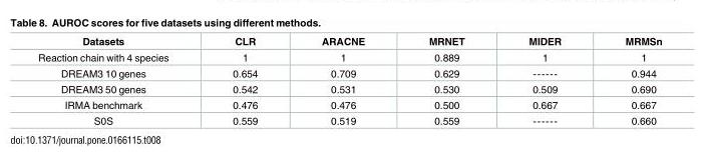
<table><thead><tr><td>Datasets</td><td>CLR</td><td>ARACNE</td><td>MRNET</td><td>MIDER</td><td>MRMSn</td></tr></thead><tbody><tr><td>Reaction chain with 4 species</td><td>1</td><td>1</td><td>0.889</td><td>1</td><td>1</td></tr><tr><td>DREAM3 10 genes</td><td>0.654</td><td>0.709</td><td>0.629</td><td>------</td><td>0.944</td></tr><tr><td>DREAM3 50 genes</td><td>0.542</td><td>0.531</td><td>0.530</td><td>0.509</td><td>0.690</td></tr><tr><td>IRMA benchmark</td><td>0.476</td><td>0.476</td><td>0.500</td><td>0.667</td><td>0.667</td></tr><tr><td>S0S</td><td>0.559</td><td>0.519</td><td>0.559</td><td>------</td><td>0.660</td></tr></tbody></table>